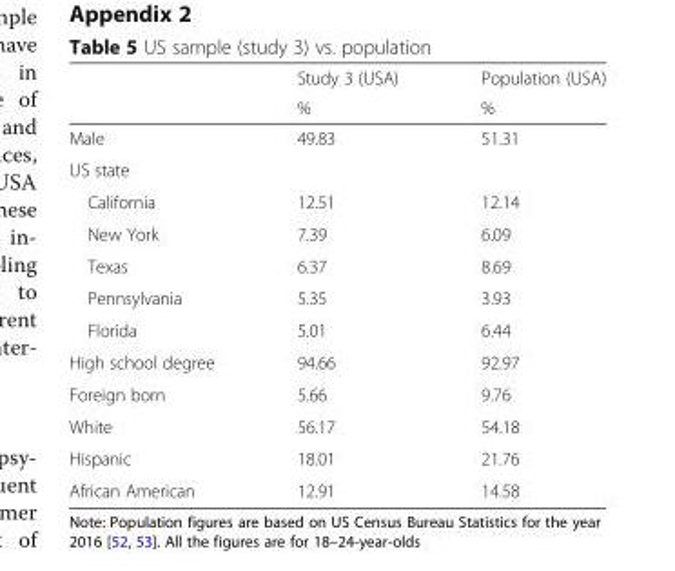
<table><thead><tr><td rowspan="2"></td><td rowspan="2">Study 3 (USA) %</td><td rowspan="2">Population (USA) %</td></tr><tr></tr></thead><tbody><tr><td>Male</td><td>49.83</td><td>51.31</td></tr><tr><td colspan="3">US state</td></tr><tr><td>California</td><td>12.51</td><td>12.14</td></tr><tr><td>New York</td><td>7.39</td><td>6.09</td></tr><tr><td>Texas</td><td>6.37</td><td>8.69</td></tr><tr><td>Pennsylvania</td><td>5.35</td><td>3.93</td></tr><tr><td>Florida</td><td>5.01</td><td>6.44</td></tr><tr><td>High school degree</td><td>94.66</td><td>92.97</td></tr><tr><td>Foreign born</td><td>5.66</td><td>9.76</td></tr><tr><td>White</td><td>56.17</td><td>54.18</td></tr><tr><td>Hispanic</td><td>18.01</td><td>21.76</td></tr><tr><td>African American</td><td>12.91</td><td>14.58</td></tr></tbody></table>